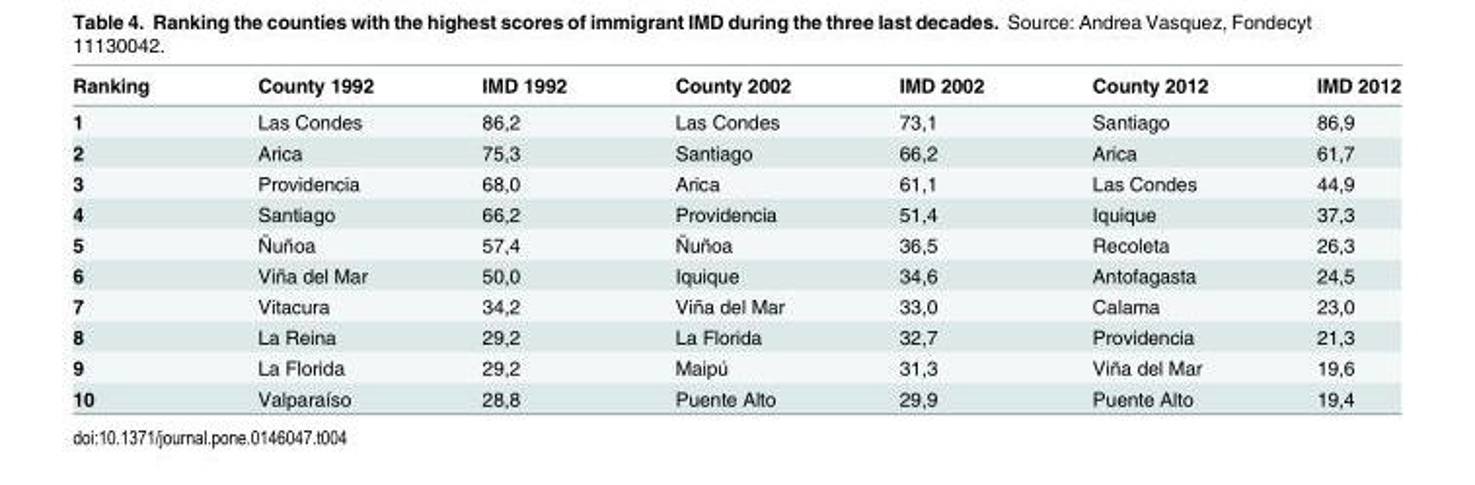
<table><thead><tr><td>Ranking</td><td>County 1992</td><td>IMD 1992</td><td>County 2002</td><td>IMD 2002</td><td>County 2012</td><td>IMD 2012</td></tr></thead><tbody><tr><td>1</td><td>Las Condes</td><td>86,2</td><td>Las Condes</td><td>73,1</td><td>Santiago</td><td>86,9</td></tr><tr><td>2</td><td>Arica</td><td>75,3</td><td>Santiago</td><td>66,2</td><td>Arica</td><td>61,7</td></tr><tr><td>3</td><td>Providencia</td><td>68,0</td><td>Arica</td><td>61,1</td><td>Las Condes</td><td>44,9</td></tr><tr><td>4</td><td>Santiago</td><td>66,2</td><td>Providencia</td><td>51,4</td><td>Iquique</td><td>37,3</td></tr><tr><td>5</td><td>Ñuñoa</td><td>57,4</td><td>Ñuñoa</td><td>36,5</td><td>Recoleta</td><td>26,3</td></tr><tr><td>6</td><td>Viña del Mar</td><td>50,0</td><td>Iquique</td><td>34,6</td><td>Antofagasta</td><td>24,5</td></tr><tr><td>7</td><td>Vitacura</td><td>34,2</td><td>Viña del Mar</td><td>33,0</td><td>Calama</td><td>23,0</td></tr><tr><td>8</td><td>La Reina</td><td>29,2</td><td>La Florida</td><td>32,7</td><td>Providencia</td><td>21,3</td></tr><tr><td>9</td><td>La Florida</td><td>29,2</td><td>Maipú</td><td>31,3</td><td>Viña del Mar</td><td>19,6</td></tr><tr><td>10</td><td>Valparaíso</td><td>28,8</td><td>Puente Alto</td><td>29,9</td><td>Puente Alto</td><td>19,4</td></tr></tbody></table>